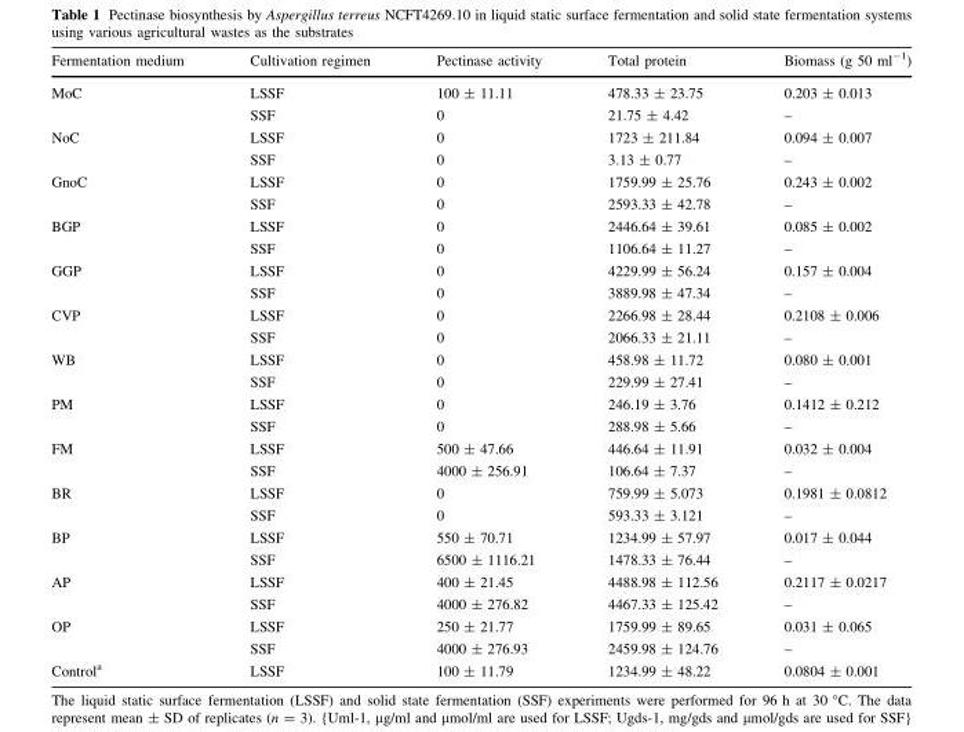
<table><thead><tr><td>Fermentation medium</td><td>Cultivation regimen</td><td>Pectinase activity</td><td>Total protein</td><td>Biomass (g 50 ml<sup>-1</sup>)</td></tr></thead><tbody><tr><td rowspan="2">MoC</td><td>LSSF</td><td>100 ± 11.11</td><td>478.33 ± 23.75</td><td>0.203 ± 0.013</td></tr><tr><td>SSF</td><td>0</td><td>21.75 ± 4.42</td><td>–</td></tr><tr><td rowspan="2">NoC</td><td>LSSF</td><td>0</td><td>1723 ± 211.84</td><td>0.094 ± 0.007</td></tr><tr><td>SSF</td><td>0</td><td>3.13 ± 0.77</td><td>–</td></tr><tr><td rowspan="2">GnoC</td><td>LSSF</td><td>0</td><td>1759.99 ± 25.76</td><td>0.243 ± 0.002</td></tr><tr><td>SSF</td><td>0</td><td>2593.33 ± 42.78</td><td>–</td></tr><tr><td rowspan="2">BGP</td><td>LSSF</td><td>0</td><td>2446.64 ± 39.61</td><td>0.085 ± 0.002</td></tr><tr><td>SSF</td><td>0</td><td>1106.64 ± 11.27</td><td>–</td></tr><tr><td rowspan="2">GGP</td><td>LSSF</td><td>0</td><td>4229.99 ± 56.24</td><td>0.157 ± 0.004</td></tr><tr><td>SSF</td><td>0</td><td>3889.98 ± 47.34</td><td>–</td></tr><tr><td rowspan="2">CVP</td><td>LSSF</td><td>0</td><td>2266.98 ± 28.44</td><td>0.2108 ± 0.006</td></tr><tr><td>SSF</td><td>0</td><td>2066.33 ± 21.11</td><td>–</td></tr><tr><td rowspan="2">WB</td><td>LSSF</td><td>0</td><td>458.98 ± 11.72</td><td>0.080 ± 0.001</td></tr><tr><td>SSF</td><td>0</td><td>229.99 ± 27.41</td><td>–</td></tr><tr><td rowspan="2">PM</td><td>LSSF</td><td>0</td><td>246.19 ± 3.76</td><td>0.1412 ± 0.212</td></tr><tr><td>SSF</td><td>0</td><td>288.98 ± 5.66</td><td>–</td></tr><tr><td rowspan="2">FM</td><td>LSSF</td><td>500 ± 47.66</td><td>446.64 ± 11.91</td><td>0.032 ± 0.004</td></tr><tr><td>SSF</td><td>4000 ± 256.91</td><td>106.64 ± 7.37</td><td>–</td></tr><tr><td rowspan="2">BR</td><td>LSSF</td><td>0</td><td>759.99 ± 5.073</td><td>0.1981 ± 0.0812</td></tr><tr><td>SSF</td><td>0</td><td>593.33 ± 3.121</td><td>–</td></tr><tr><td rowspan="2">BP</td><td>LSSF</td><td>550 ± 70.71</td><td>1234.99 ± 57.97</td><td>0.017 ± 0.044</td></tr><tr><td>SSF</td><td>6500 ± 1116.21</td><td>1478.33 ± 76.44</td><td>–</td></tr><tr><td rowspan="2">AP</td><td>LSSF</td><td>400 ± 21.45</td><td>4488.98 ± 112.56</td><td>0.2117 ± 0.0217</td></tr><tr><td>SSF</td><td>4000 ± 276.82</td><td>4467.33 ± 125.42</td><td>–</td></tr><tr><td rowspan="2">OP</td><td>LSSF</td><td>250 ± 21.77</td><td>1759.99 ± 89.65</td><td>0.031 ± 0.065</td></tr><tr><td>SSF</td><td>4000 ± 276.93</td><td>2459.98 ± 124.76</td><td>–</td></tr><tr><td>Control<sup>a</sup></td><td>LSSF</td><td>100 ± 11.79</td><td>1234.99 ± 48.22</td><td>0.0804 ± 0.001</td></tr></tbody></table>